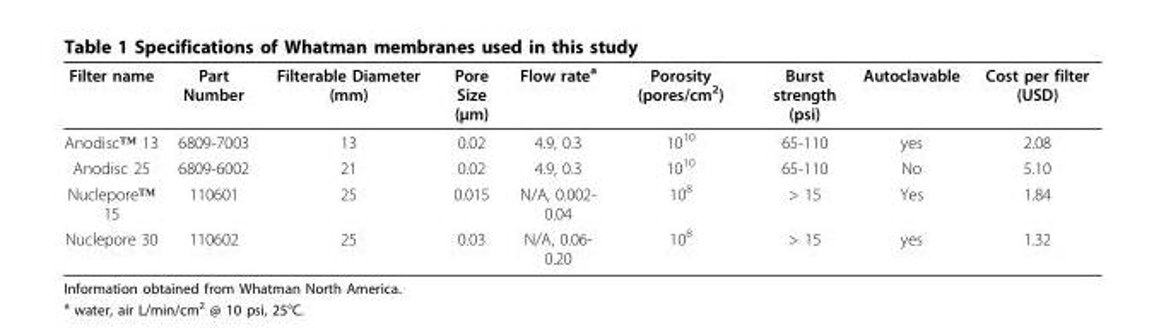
<table><thead><tr><td>Filter name</td><td>Part Number</td><td>Filterable Diameter (mm)</td><td>Pore Size (μm)</td><td>Flow rate<sup>a</sup></td><td>Porosity (pores/cm<sup>2</sup>)</td><td>Burst strength (psi)</td><td>Autoclavable</td><td>Cost per filter (USD)</td></tr></thead><tbody><tr><td>Anodisc™ 13</td><td>6809-7003</td><td>13</td><td>0.02</td><td>4.9, 0.3</td><td>10<sup>10</sup></td><td>65-110</td><td>yes</td><td>2.08</td></tr><tr><td>Anodisc 25</td><td>6809-6002</td><td>21</td><td>0.02</td><td>4.9, 0.3</td><td>10<sup>10</sup></td><td>65-110</td><td>No</td><td>5.10</td></tr><tr><td>Nuclepore™ 15</td><td>110601</td><td>25</td><td>0.015</td><td>N/A, 0.002- 0.04</td><td>10<sup>8</sup></td><td>&gt; 15</td><td>Yes</td><td>1.84</td></tr><tr><td>Nuclepore 30</td><td>110602</td><td>25</td><td>0.03</td><td>N/A, 0.06- 0.20</td><td>10<sup>8</sup></td><td>&gt; 15</td><td>yes</td><td>1.32</td></tr></tbody></table>